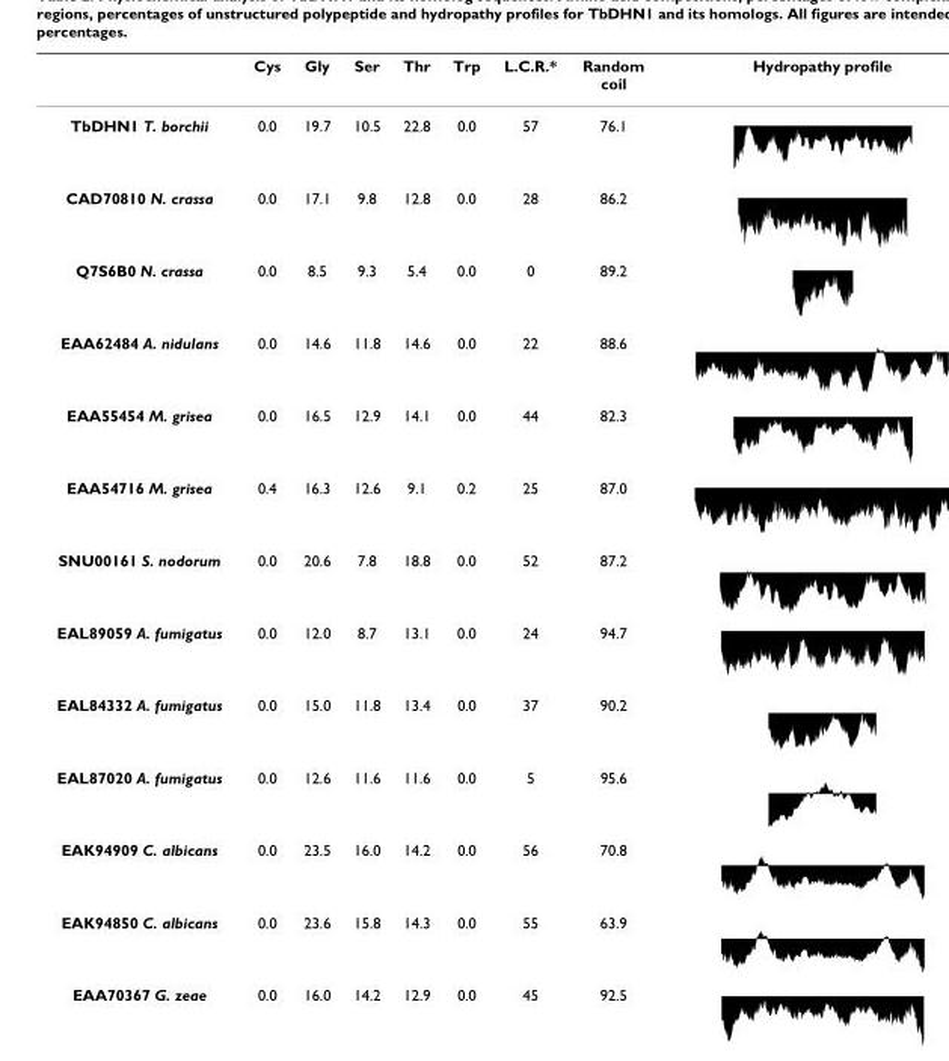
<table><thead><tr><td></td><td>Cys</td><td>Gly</td><td>Ser</td><td>Thr</td><td>Trp</td><td>L.C.R.*</td><td>Random coil</td><td>Hydropathy profile</td></tr></thead><tbody><tr><td>TbDHN1 T. borchii</td><td>0.0</td><td>19.7</td><td>10.5</td><td>22.8</td><td>0.0</td><td>57</td><td>76.1</td><td></td></tr><tr><td>CAD70810 N. crassa</td><td>0.0</td><td>17.1</td><td>9.8</td><td>12.8</td><td>0.0</td><td>28</td><td>86.2</td><td></td></tr><tr><td>Q7S6B0 N. crassa</td><td>0.0</td><td>8.5</td><td>9.3</td><td>5.4</td><td>0.0</td><td>0</td><td>89.2</td><td></td></tr><tr><td>EAA62484 A. nidulans</td><td>0.0</td><td>14.6</td><td>11.8</td><td>14.6</td><td>0.0</td><td>22</td><td>88.6</td><td></td></tr><tr><td>EAA55454 M. grisea</td><td>0.0</td><td>16.5</td><td>12.9</td><td>14.1</td><td>0.0</td><td>44</td><td>82.3</td><td></td></tr><tr><td>EAA54716 M. grisea</td><td>0.4</td><td>16.3</td><td>12.6</td><td>9.1</td><td>0.2</td><td>25</td><td>87.0</td><td></td></tr><tr><td>SNU00161 S. nodorum</td><td>0.0</td><td>20.6</td><td>7.8</td><td>18.8</td><td>0.0</td><td>52</td><td>87.2</td><td></td></tr><tr><td>EAL89059 A. fumigatus</td><td>0.0</td><td>12.0</td><td>8.7</td><td>13.1</td><td>0.0</td><td>24</td><td>94.7</td><td></td></tr><tr><td>EAL84332 A. fumigatus</td><td>0.0</td><td>15.0</td><td>11.8</td><td>13.4</td><td>0.0</td><td>37</td><td>90.2</td><td></td></tr><tr><td>EAL87020 A. fumigatus</td><td>0.0</td><td>12.6</td><td>11.6</td><td>11.6</td><td>0.0</td><td>5</td><td>95.6</td><td></td></tr><tr><td>EAK94909 C. albicans</td><td>0.0</td><td>23.5</td><td>16.0</td><td>14.2</td><td>0.0</td><td>56</td><td>70.8</td><td></td></tr><tr><td>EAK94850 C. albicans</td><td>0.0</td><td>23.6</td><td>15.8</td><td>14.3</td><td>0.0</td><td>55</td><td>63.9</td><td></td></tr><tr><td>EAA70367 G. zeae</td><td>0.0</td><td>16.0</td><td>14.2</td><td>12.9</td><td>0.0</td><td>45</td><td>92.5</td><td></td></tr></tbody></table>